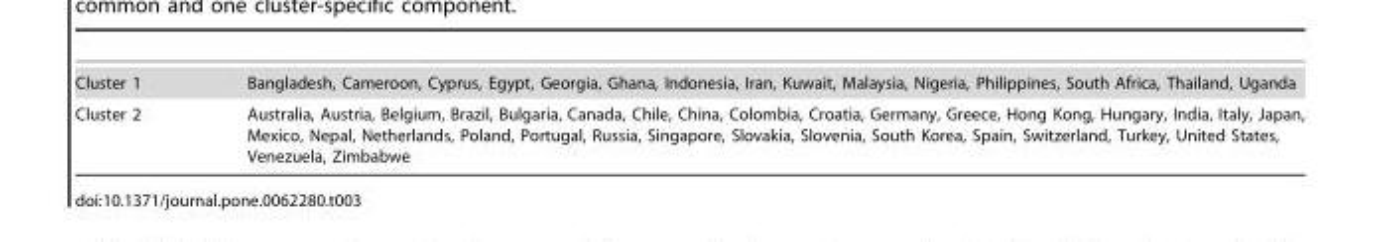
<table><tbody><tr><td>Cluster 1</td><td>Bangladesh, Cameroon, Cyprus, Egypt, Georgia, Ghana, Indonesia, Iran, Kuwait, Malaysia, Nigeria, Philippines, South Africa, Thailand, Uganda</td></tr><tr><td>Cluster 2</td><td>Australia, Austria, Belgium, Brazil, Bulgaria, Canada, Chile, China, Colombia, Croatia, Germany, Greece, Hong Kong, Hungary, India, Italy, Japan, Mexico, Nepal, Netherlands, Poland, Portugal, Russia, Singapore, Slovakia, Slovenia, South Korea, Spain, Switzerland, Turkey, United States, Venezuela, Zimbabwe</td></tr></tbody></table>